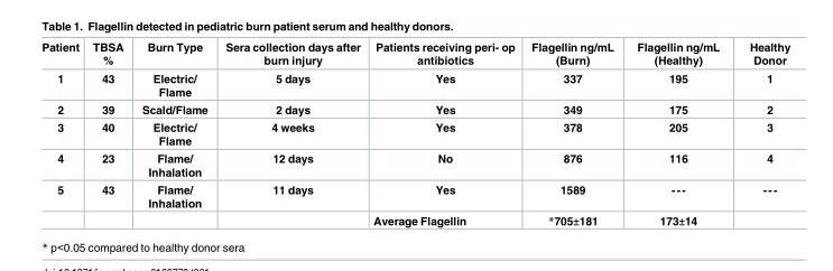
<table><thead><tr><td>Patient</td><td>TBSA %</td><td>Burn Type</td><td>Sera collection days after burn injury</td><td>Patients receiving peri- op antibiotics</td><td>Flagellin ng/mL (Burn)</td><td>Flagellin ng/mL (Healthy)</td><td>Healthy Donor</td></tr></thead><tbody><tr><td>1</td><td>43</td><td>Electric/ Flame</td><td>5 days</td><td>Yes</td><td>337</td><td>195</td><td>1</td></tr><tr><td>2</td><td>39</td><td>Scald/Flame</td><td>2 days</td><td>Yes</td><td>349</td><td>175</td><td>2</td></tr><tr><td>3</td><td>40</td><td>Electric/ Flame</td><td>4 weeks</td><td>Yes</td><td>378</td><td>205</td><td>3</td></tr><tr><td>4</td><td>23</td><td>Flame/ Inhalation</td><td>12 days</td><td>No</td><td>876</td><td>116</td><td>4</td></tr><tr><td rowspan="2">5</td><td>43</td><td>Flame/ Inhalation</td><td>11 days</td><td>Yes</td><td>1589</td><td>---</td><td>---</td></tr><tr><td></td><td></td><td></td><td>Average Flagellin</td><td>*705±181</td><td>173±14</td><td></td></tr></tbody></table>